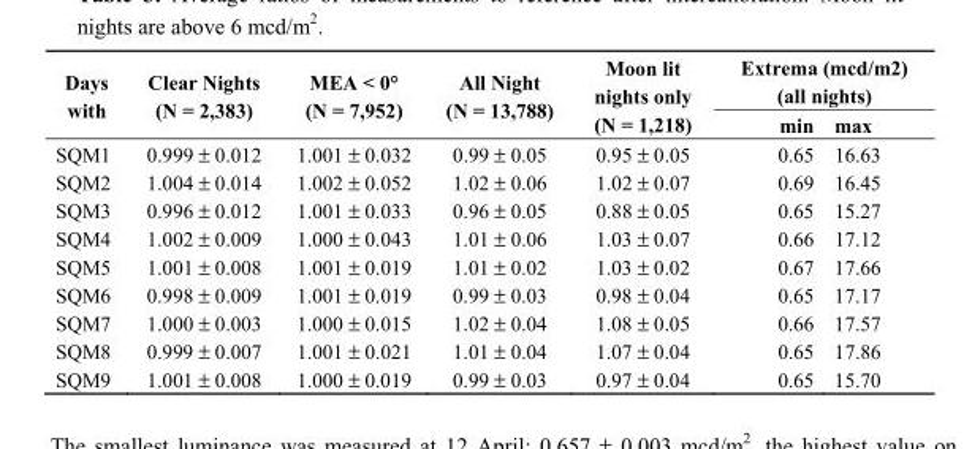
<table><thead><tr><td rowspan="2">Days with</td><td rowspan="2">Clear Nights (N = 2,383)</td><td rowspan="2">MEA &lt; 0° (N = 7,952)</td><td rowspan="2">All Night (N = 13,788)</td><td rowspan="2">Moon lit nights only (N = 1,218)</td><td colspan="2">Extrema (mcd/m2) (all nights)</td></tr><tr><td>min</td><td>max</td></tr></thead><tbody><tr><td>SQM1</td><td>0.999 ± 0.012</td><td>1.001 ± 0.032</td><td>0.99 ± 0.05</td><td>0.95 ± 0.05</td><td>0.65</td><td>16.63</td></tr><tr><td>SQM2</td><td>1.004 ± 0.014</td><td>1.002 ± 0.052</td><td>1.02 ± 0.06</td><td>1.02 ± 0.07</td><td>0.69</td><td>16.45</td></tr><tr><td>SQM3</td><td>0.996 ± 0.012</td><td>1.001 ± 0.033</td><td>0.96 ± 0.05</td><td>0.88 ± 0.05</td><td>0.65</td><td>15.27</td></tr><tr><td>SQM4</td><td>1.002 ± 0.009</td><td>1.000 ± 0.043</td><td>1.01 ± 0.06</td><td>1.03 ± 0.07</td><td>0.66</td><td>17.12</td></tr><tr><td>SQM5</td><td>1.001 ± 0.008</td><td>1.001 ± 0.019</td><td>1.01 ± 0.02</td><td>1.03 ± 0.02</td><td>0.67</td><td>17.66</td></tr><tr><td>SQM6</td><td>0.998 ± 0.009</td><td>1.001 ± 0.019</td><td>0.99 ± 0.03</td><td>0.98 ± 0.04</td><td>0.65</td><td>17.17</td></tr><tr><td>SQM7</td><td>1.000 ± 0.003</td><td>1.000 ± 0.015</td><td>1.02 ± 0.04</td><td>1.08 ± 0.05</td><td>0.66</td><td>17.57</td></tr><tr><td>SQM8</td><td>0.999 ± 0.007</td><td>1.001 ± 0.021</td><td>1.01 ± 0.04</td><td>1.07 ± 0.04</td><td>0.65</td><td>17.86</td></tr><tr><td>SQM9</td><td>1.001 ± 0.008</td><td>1.000 ± 0.019</td><td>0.99 ± 0.03</td><td>0.97 ± 0.04</td><td>0.65</td><td>15.70</td></tr></tbody></table>